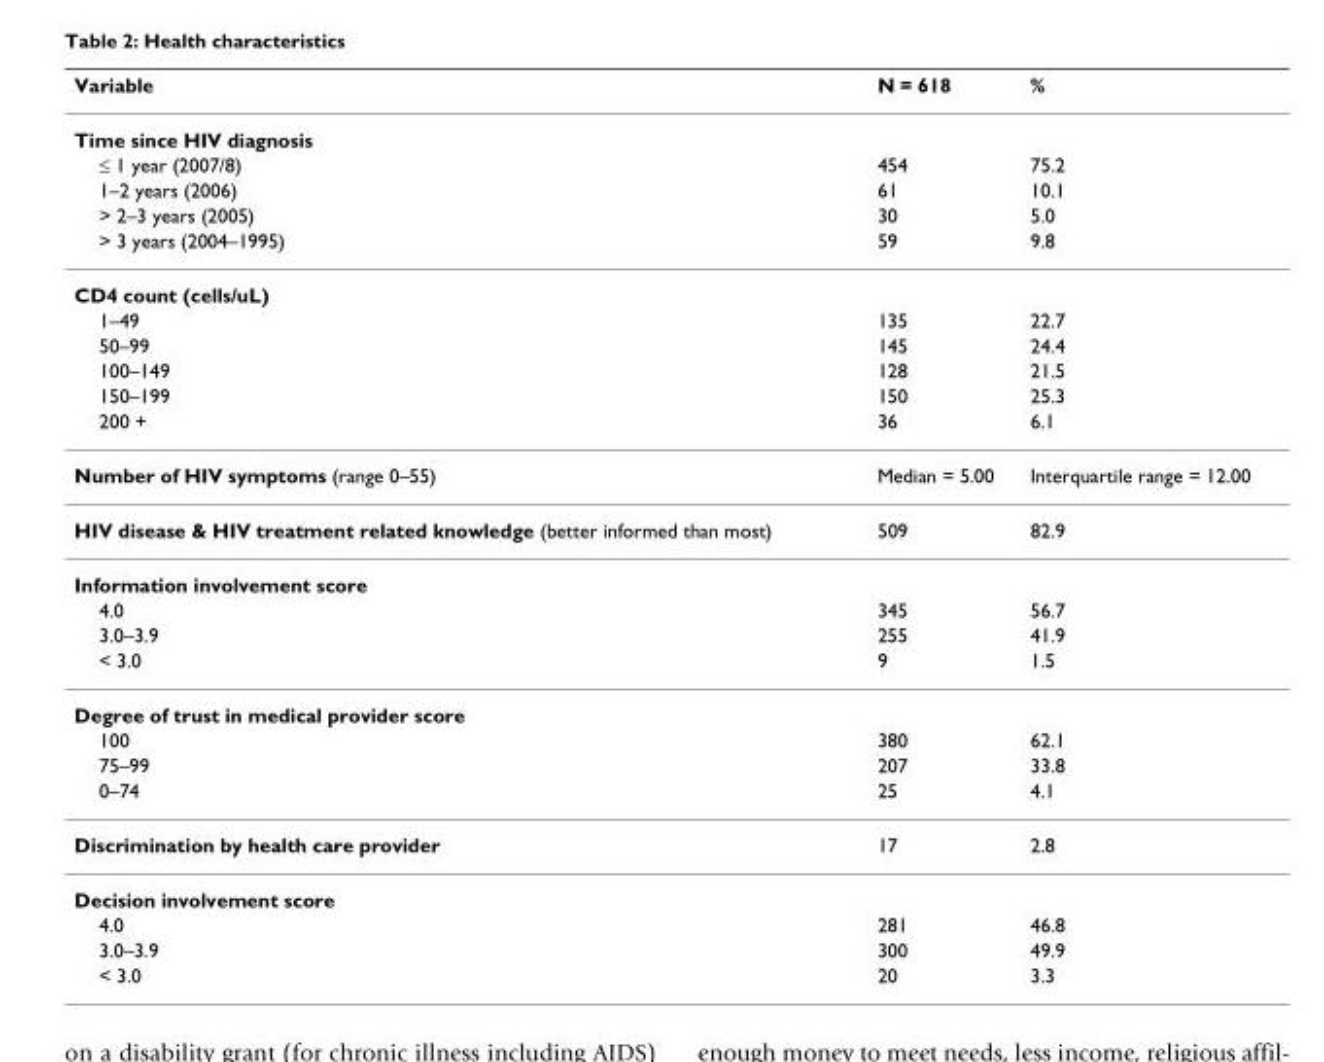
<table><thead><tr><td>Variable</td><td>N = 618</td><td>%</td></tr></thead><tbody><tr><td colspan="3">Time since HIV diagnosis</td></tr><tr><td>≤ 1 year (2007/8)</td><td>454</td><td>75.2</td></tr><tr><td>1–2 years (2006)</td><td>61</td><td>10.1</td></tr><tr><td>&gt; 2–3 years (2005)</td><td>30</td><td>5.0</td></tr><tr><td>&gt; 3 years (2004–1995)</td><td>59</td><td>9.8</td></tr><tr><td colspan="3">CD4 count (cells/uL)</td></tr><tr><td>1–49</td><td>135</td><td>22.7</td></tr><tr><td>50–99</td><td>145</td><td>24.4</td></tr><tr><td>100–149</td><td>128</td><td>21.5</td></tr><tr><td>150–199</td><td>150</td><td>25.3</td></tr><tr><td>200 +</td><td>36</td><td>6.1</td></tr><tr><td>Number of HIV symptoms (range 0–55)</td><td>Median = 5.00</td><td>Interquartile range = 12.00</td></tr><tr><td>HIV disease &amp; HIV treatment related knowledge (better informed than most)</td><td>509</td><td>82.9</td></tr><tr><td colspan="3">Information involvement score</td></tr><tr><td>4.0</td><td>345</td><td>56.7</td></tr><tr><td>3.0–3.9</td><td>255</td><td>41.9</td></tr><tr><td>&lt; 3.0</td><td>9</td><td>1.5</td></tr><tr><td colspan="3">Degree of trust in medical provider score</td></tr><tr><td>100</td><td>380</td><td>62.1</td></tr><tr><td>75–99</td><td>207</td><td>33.8</td></tr><tr><td>0–74</td><td>25</td><td>4.1</td></tr><tr><td>Discrimination by health care provider</td><td>17</td><td>2.8</td></tr><tr><td colspan="3">Decision involvement score</td></tr><tr><td>4.0</td><td>281</td><td>46.8</td></tr><tr><td>3.0–3.9</td><td>300</td><td>49.9</td></tr><tr><td>&lt; 3.0</td><td>20</td><td>3.3</td></tr></tbody></table>